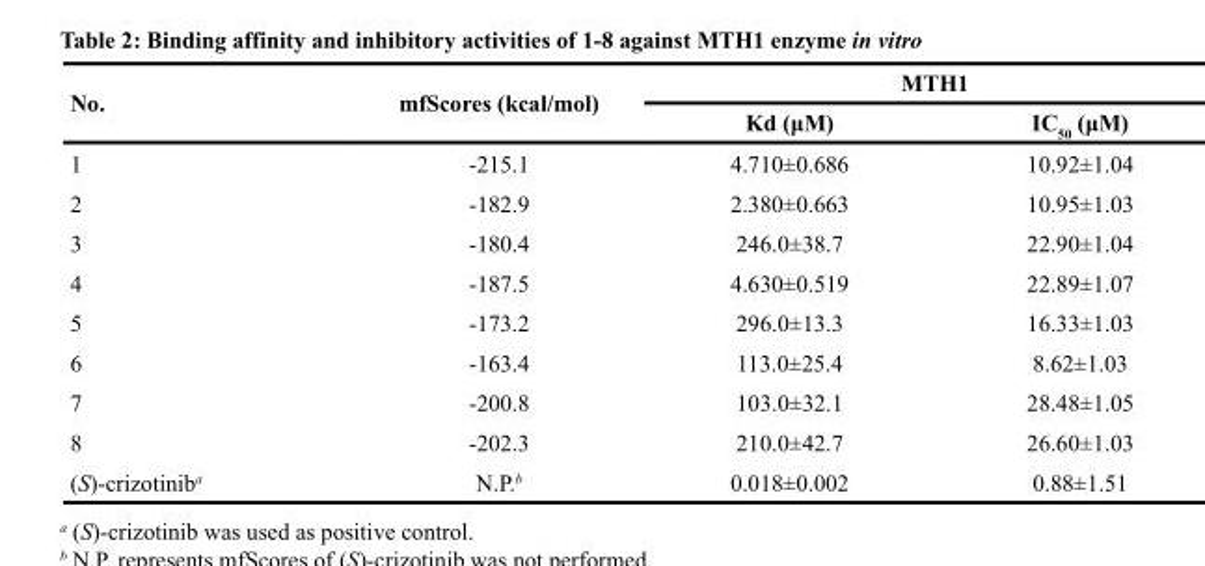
<table><thead><tr><td rowspan="2">No.</td><td rowspan="2">mfScores (kcal/mol)</td><td colspan="2">MTH1</td></tr><tr><td>Kd (μM)</td><td>IC<sub>50</sub> (μM)</td></tr></thead><tbody><tr><td>1</td><td>-215.1</td><td>4.710±0.686</td><td>10.92±1.04</td></tr><tr><td>2</td><td>-182.9</td><td>2.380±0.663</td><td>10.95±1.03</td></tr><tr><td>3</td><td>-180.4</td><td>246.0±38.7</td><td>22.90±1.04</td></tr><tr><td>4</td><td>-187.5</td><td>4.630±0.519</td><td>22.89±1.07</td></tr><tr><td>5</td><td>-173.2</td><td>296.0±13.3</td><td>16.33±1.03</td></tr><tr><td>6</td><td>-163.4</td><td>113.0±25.4</td><td>8.62±1.03</td></tr><tr><td>7</td><td>-200.8</td><td>103.0±32.1</td><td>28.48±1.05</td></tr><tr><td>8</td><td>-202.3</td><td>210.0±42.7</td><td>26.60±1.03</td></tr><tr><td>(S)-crizotinib<sup>a</sup></td><td>N.P.<sup>b</sup></td><td>0.018±0.002</td><td>0.88±1.51</td></tr></tbody></table>